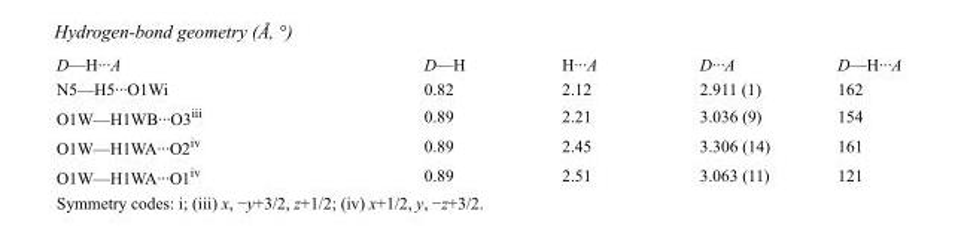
<table><tbody><tr><td>D—H···A</td><td>D—H</td><td>H···A</td><td>D···A</td><td>D—H···A</td></tr><tr><td>N5—H5···O1Wi</td><td>0.82</td><td>2.12</td><td>2.911 (1)</td><td>162</td></tr><tr><td>O1W—H1WB···O3<sup>iii</sup></td><td>0.89</td><td>2.21</td><td>3.036 (9)</td><td>154</td></tr><tr><td>O1W—H1WA···O2<sup>iv</sup></td><td>0.89</td><td>2.45</td><td>3.306 (14)</td><td>161</td></tr><tr><td>O1W—H1WA···O1<sup>iv</sup></td><td>0.89</td><td>2.51</td><td>3.063 (11)</td><td>121</td></tr></tbody></table>